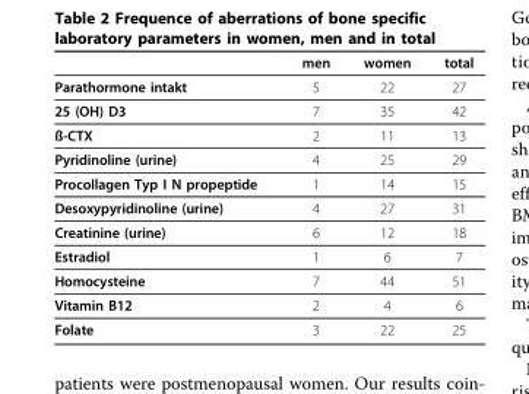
<table><thead><tr><td></td><td>men</td><td>women</td><td>total</td></tr></thead><tbody><tr><td>Parathormone intakt</td><td>5</td><td>22</td><td>27</td></tr><tr><td>25 (OH) D3</td><td>7</td><td>35</td><td>42</td></tr><tr><td>ß-CTX</td><td>2</td><td>11</td><td>13</td></tr><tr><td>Pyridinoline (urine)</td><td>4</td><td>25</td><td>29</td></tr><tr><td>Procollagen Typ I N propeptide</td><td>1</td><td>14</td><td>15</td></tr><tr><td>Desoxypyridinoline (urine)</td><td>4</td><td>27</td><td>31</td></tr><tr><td>Creatinine (urine)</td><td>6</td><td>12</td><td>18</td></tr><tr><td>Estradiol</td><td>1</td><td>6</td><td>7</td></tr><tr><td>Homocysteine</td><td>7</td><td>44</td><td>51</td></tr><tr><td>Vitamin B12</td><td>2</td><td>4</td><td>6</td></tr><tr><td>Folate</td><td>3</td><td>22</td><td>25</td></tr></tbody></table>